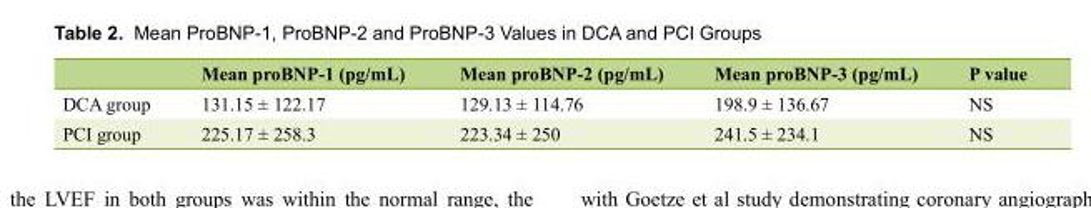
<table><thead><tr><td></td><td>Mean proBNP-1 (pg/mL)</td><td>Mean proBNP-2 (pg/mL)</td><td>Mean proBNP-3 (pg/mL)</td><td>P value</td></tr></thead><tbody><tr><td>DCA group</td><td>131.15 ± 122.17</td><td>129.13 ± 114.76</td><td>198.9 ± 136.67</td><td>NS</td></tr><tr><td>PCI group</td><td>225.17 ± 258.3</td><td>223.34 ± 250</td><td>241.5 ± 234.1</td><td>NS</td></tr></tbody></table>